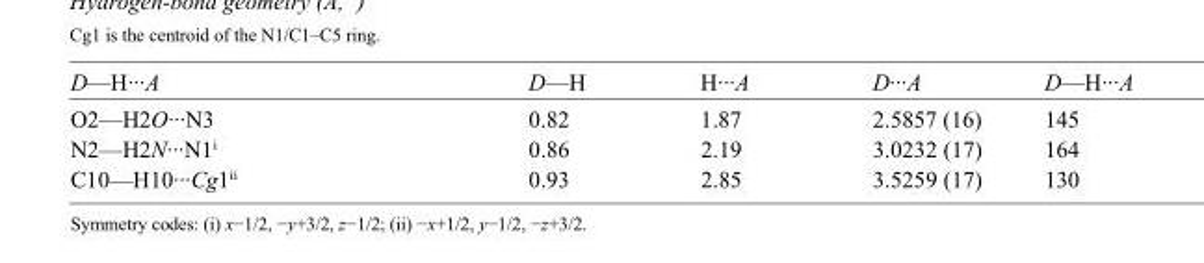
<table><tbody><tr><td>D—H···A</td><td>D—H</td><td>H···A</td><td>D···A</td><td>D—H···A</td></tr><tr><td>O2—H2O···N3</td><td>0.82</td><td>1.87</td><td>2.5857 (16)</td><td>145</td></tr><tr><td>N2—H2N···N1<sup>i</sup></td><td>0.86</td><td>2.19</td><td>3.0232 (17)</td><td>164</td></tr><tr><td>C10—H10···Cg1<sup>ii</sup></td><td>0.93</td><td>2.85</td><td>3.5259 (17)</td><td>130</td></tr></tbody></table>